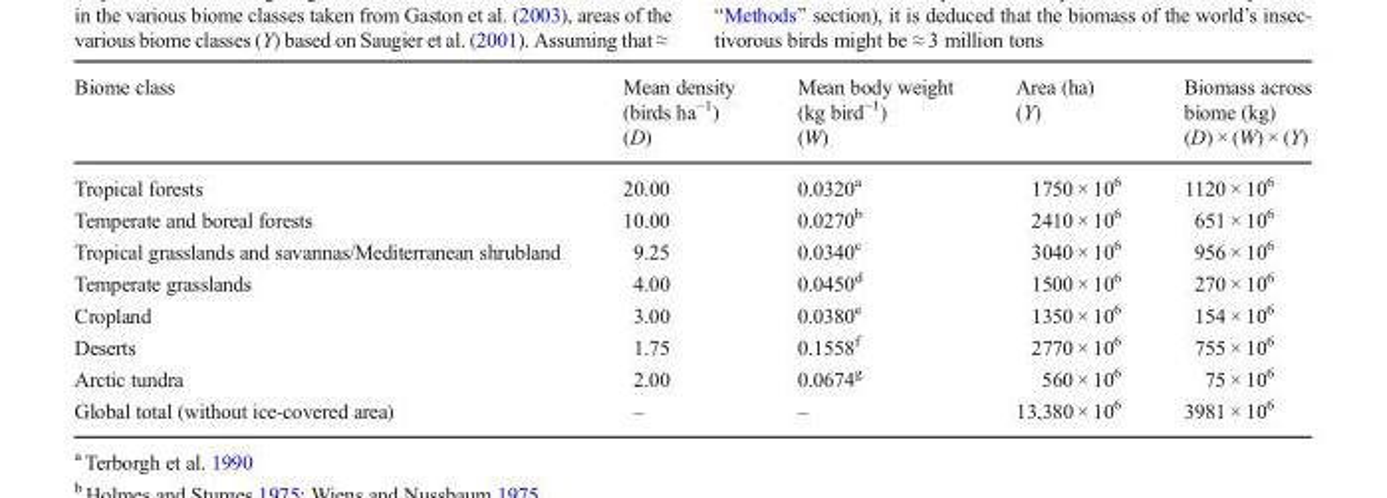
<table><thead><tr><td>Biome class</td><td>Mean density (birds ha<sup>−1</sup>) (D)</td><td>Mean body weight (kg bird<sup>−1</sup>) (W)</td><td>Area (ha) (Y)</td><td>Biomass across biome (kg) (D) × (W) × (Y)</td></tr></thead><tbody><tr><td>Tropical forests</td><td>20.00</td><td>0.0320<sup>a</sup></td><td>1750 × 10<sup>6</sup></td><td>1120 × 10<sup>6</sup></td></tr><tr><td>Temperate and boreal forests</td><td>10.00</td><td>0.0270<sup>b</sup></td><td>2410 × 10<sup>6</sup></td><td>651 × 10<sup>6</sup></td></tr><tr><td>Tropical grasslands and savannas/Mediterranean shrubland</td><td>9.25</td><td>0.0340<sup>c</sup></td><td>3040 × 10<sup>6</sup></td><td>956 × 10<sup>6</sup></td></tr><tr><td>Temperate grasslands</td><td>4.00</td><td>0.0450<sup>d</sup></td><td>1500 × 10<sup>6</sup></td><td>270 × 10<sup>6</sup></td></tr><tr><td>Cropland</td><td>3.00</td><td>0.0380<sup>e</sup></td><td>1350 × 10<sup>6</sup></td><td>154 × 10<sup>6</sup></td></tr><tr><td>Deserts</td><td>1.75</td><td>0.1558<sup>f</sup></td><td>2770 × 10<sup>6</sup></td><td>755 × 10<sup>6</sup></td></tr><tr><td>Arctic tundra</td><td>2.00</td><td>0.0674<sup>g</sup></td><td>560 × 10<sup>6</sup></td><td>75 × 10<sup>6</sup></td></tr><tr><td>Global total (without ice-covered area)</td><td>–</td><td>–</td><td>13,380 × 10<sup>6</sup></td><td>3981 × 10<sup>6</sup></td></tr></tbody></table>